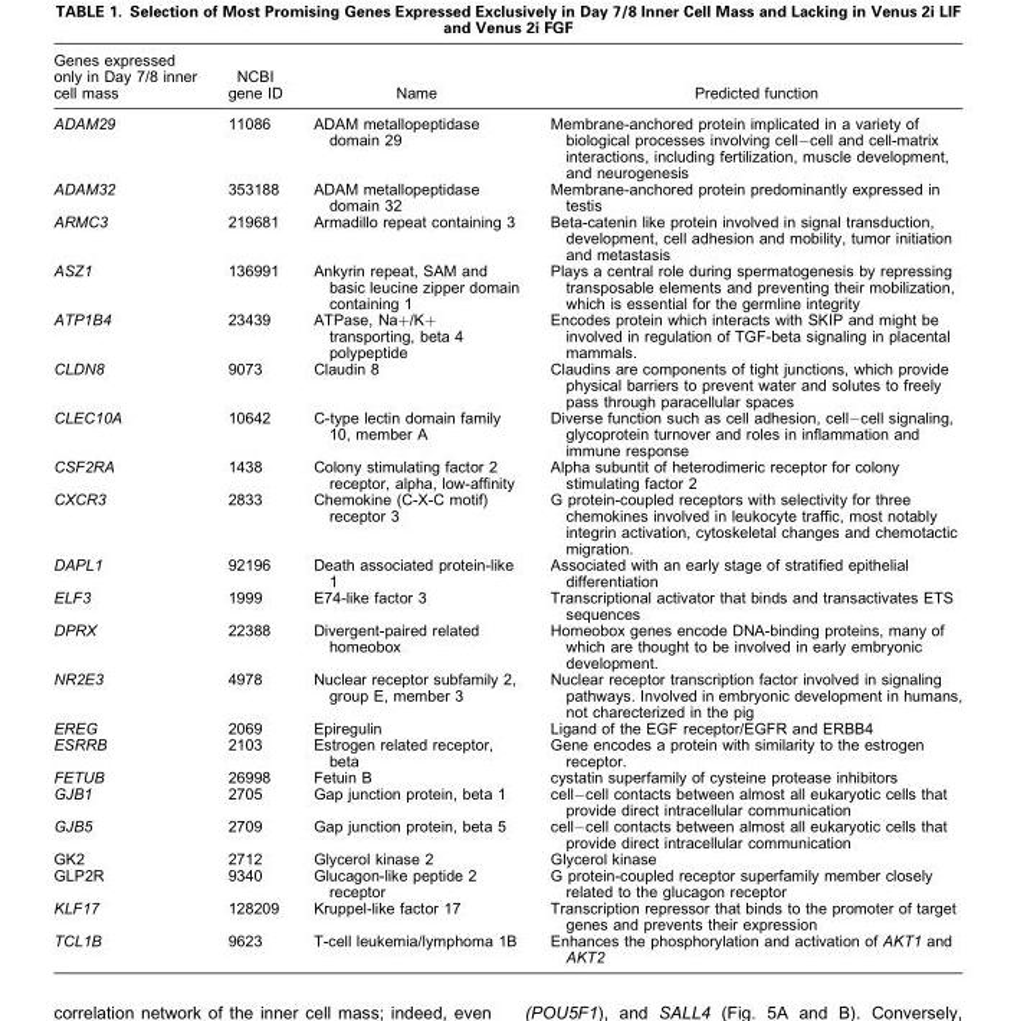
<table><thead><tr><td>Genes expressed only in Day 7/8 inner cell mass</td><td>NCBI gene ID</td><td>Name</td><td>Predicted function</td></tr></thead><tbody><tr><td>ADAM29</td><td>11086</td><td>ADAM metallopeptidase domain 29</td><td>Membrane-anchored protein implicated in a variety of biological processes involving cell–cell and cell-matrix interactions, including fertilization, muscle development, and neurogenesis</td></tr><tr><td>ADAM32</td><td>353188</td><td>ADAM metallopeptidase domain 32</td><td>Membrane-anchored protein predominantly expressed in testis</td></tr><tr><td>ARMC3</td><td>219681</td><td>Armadillo repeat containing 3</td><td>Beta-catenin like protein involved in signal transduction, development, cell adhesion and mobility, tumor initiation and metastasis</td></tr><tr><td>ASZ1</td><td>136991</td><td>Ankyrin repeat, SAM and basic leucine zipper domain containing 1</td><td>Plays a central role during spermatogenesis by repressing transposable elements and preventing their mobilization, which is essential for the germline integrity</td></tr><tr><td>ATP1B4</td><td>23439</td><td>ATPase, Na+/K+ transporting, beta 4 polypeptide</td><td>Encodes protein which interacts with SKIP and might be involved in regulation of TGF-beta signaling in placental mammals.</td></tr><tr><td>CLDN8</td><td>9073</td><td>Claudin 8</td><td>Claudins are components of tight junctions, which provide physical barriers to prevent water and solutes to freely pass through paracellular spaces</td></tr><tr><td>CLEC10A</td><td>10642</td><td>C-type lectin domain family 10, member A</td><td>Diverse function such as cell adhesion, cell–cell signaling, glycoprotein turnover and roles in inflammation and immune response</td></tr><tr><td>CSF2RA</td><td>1438</td><td>Colony stimulating factor 2 receptor, alpha, low-affinity</td><td>Alpha subuntit of heterodimeric receptor for colony stimulating factor 2</td></tr><tr><td>CXCR3</td><td>2833</td><td>Chemokine (C-X-C motif) receptor 3</td><td>G protein-coupled receptors with selectivity for three chemokines involved in leukocyte traffic, most notably integrin activation, cytoskeletal changes and chemotactic migration.</td></tr><tr><td>DAPL1</td><td>92196</td><td>Death associated protein-like 1</td><td>Associated with an early stage of stratified epithelial differentiation</td></tr><tr><td>ELF3</td><td>1999</td><td>E74-like factor 3</td><td>Transcriptional activator that binds and transactivates ETS sequences</td></tr><tr><td>DPRX</td><td>22388</td><td>Divergent-paired related homeobox</td><td>Homeobox genes encode DNA-binding proteins, many of which are thought to be involved in early embryonic development.</td></tr><tr><td>NR2E3</td><td>4978</td><td>Nuclear receptor subfamily 2, group E, member 3</td><td>Nuclear receptor transcription factor involved in signaling pathways. Involved in embryonic development in humans, not charecterized in the pig</td></tr><tr><td>EREG</td><td>2069</td><td>Epiregulin</td><td>Ligand of the EGF receptor/EGFR and ERBB4</td></tr><tr><td>ESRRB</td><td>2103</td><td>Estrogen related receptor, beta</td><td>Gene encodes a protein with similarity to the estrogen receptor.</td></tr><tr><td>FETUB</td><td>26998</td><td>Fetuin B</td><td>cystatin superfamily of cysteine protease inhibitors</td></tr><tr><td>GJB1</td><td>2705</td><td>Gap junction protein, beta 1</td><td>cell–cell contacts between almost all eukaryotic cells that provide direct intracellular communication</td></tr><tr><td>GJB5</td><td>2709</td><td>Gap junction protein, beta 5</td><td>cell–cell contacts between almost all eukaryotic cells that provide direct intracellular communication</td></tr><tr><td>GK2</td><td>2712</td><td>Glycerol kinase 2</td><td>Glycerol kinase</td></tr><tr><td>GLP2R</td><td>9340</td><td>Glucagon-like peptide 2 receptor</td><td>G protein-coupled receptor superfamily member closely related to the glucagon receptor</td></tr><tr><td>KLF17</td><td>128209</td><td>Kruppel-like factor 17</td><td>Transcription repressor that binds to the promoter of target genes and prevents their expression</td></tr><tr><td>TCL1B</td><td>9623</td><td>T-cell leukemia/lymphoma 1B</td><td>Enhances the phosphorylation and activation of AKT1 and AKT2</td></tr></tbody></table>